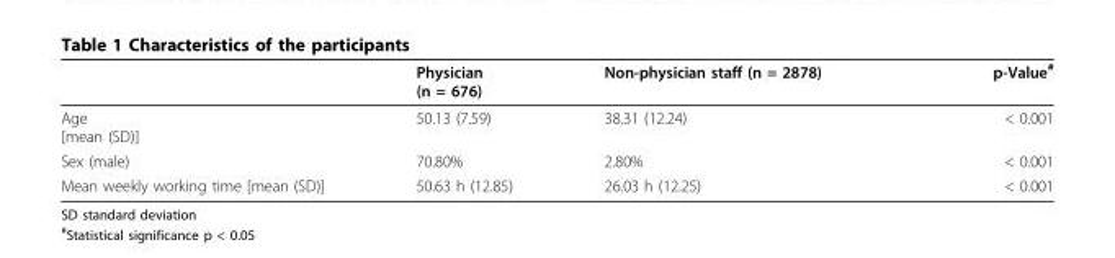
<table><thead><tr><td></td><td>Physician (n = 676)</td><td>Non-physician staff (n = 2878)</td><td>p-Value<sup>#</sup></td></tr></thead><tbody><tr><td>Age [mean (SD)]</td><td>50.13 (7.59)</td><td>38.31 (12.24)</td><td>&lt; 0.001</td></tr><tr><td>Sex (male)</td><td>70.80%</td><td>2.80%</td><td>&lt; 0.001</td></tr><tr><td>Mean weekly working time [mean (SD)]</td><td>50.63 h (12.85)</td><td>26.03 h (12.25)</td><td>&lt; 0.001</td></tr></tbody></table>